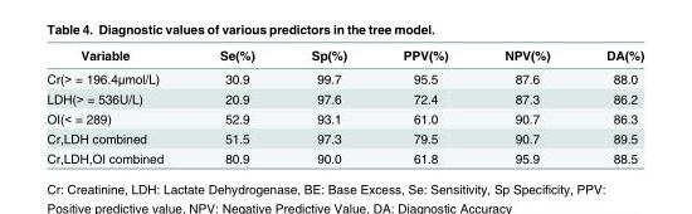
<table><thead><tr><td>Variable</td><td>Se(%)</td><td>Sp(%)</td><td>PPV(%)</td><td>NPV(%)</td><td>DA(%)</td></tr></thead><tbody><tr><td>Cr(&gt; = 196.4μmol/L)</td><td>30.9</td><td>99.7</td><td>95.5</td><td>87.6</td><td>88.0</td></tr><tr><td>LDH(&gt; = 536U/L)</td><td>20.9</td><td>97.6</td><td>72.4</td><td>87.3</td><td>86.2</td></tr><tr><td>OI(&lt; = 289)</td><td>52.9</td><td>93.1</td><td>61.0</td><td>90.7</td><td>86.3</td></tr><tr><td>Cr,LDH combined</td><td>51.5</td><td>97.3</td><td>79.5</td><td>90.7</td><td>89.5</td></tr><tr><td>Cr,LDH,OI combined</td><td>80.9</td><td>90.0</td><td>61.8</td><td>95.9</td><td>88.5</td></tr></tbody></table>